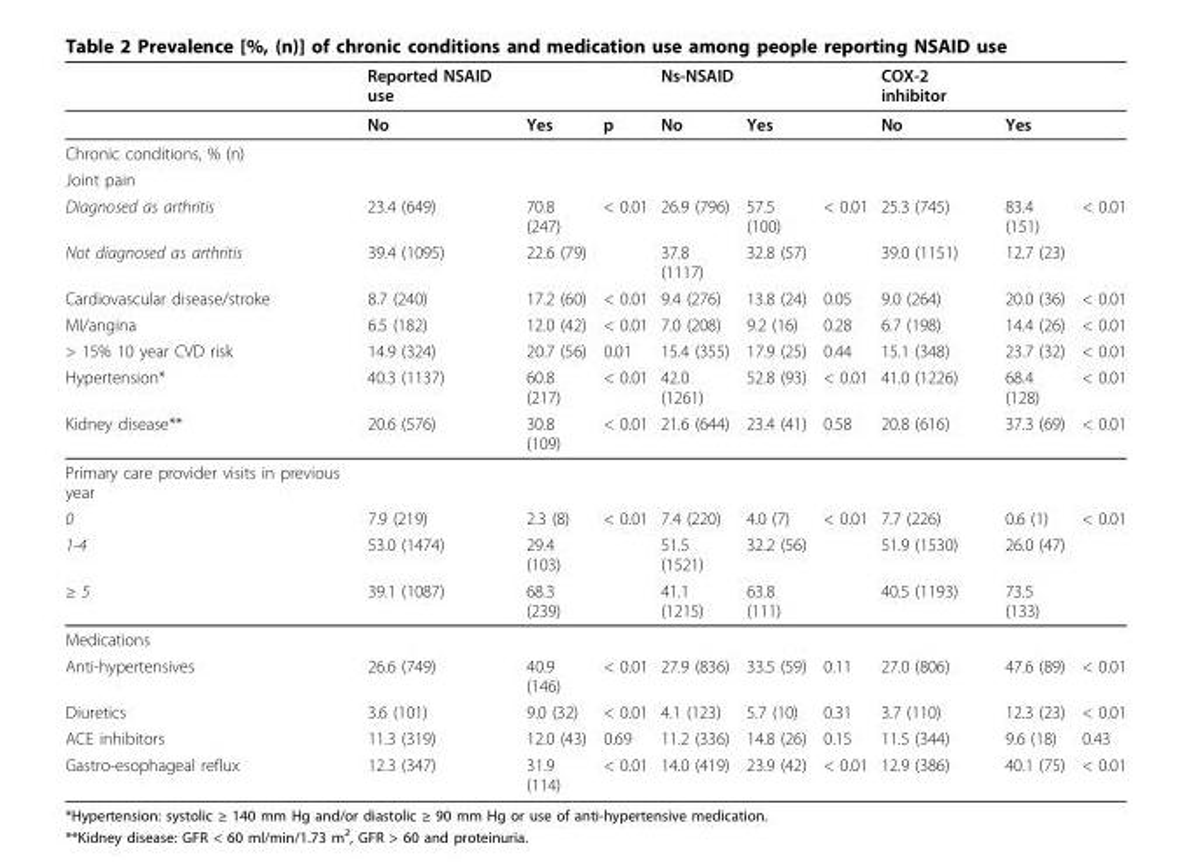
<table><thead><tr><td></td><td>Reported NSAID use</td><td></td><td></td><td>Ns-NSAID</td><td></td><td></td><td>COX-2 inhibitor</td><td></td><td></td></tr></thead><tbody><tr><td></td><td>No</td><td>Yes</td><td>p</td><td>No</td><td>Yes</td><td></td><td>No</td><td>Yes</td><td></td></tr><tr><td colspan="10">Chronic conditions, % (n)</td></tr><tr><td colspan="10">Joint pain</td></tr><tr><td>Diagnosed as arthritis</td><td>23.4 (649)</td><td>70.8 (247)</td><td>&lt; 0.01</td><td>26.9 (796)</td><td>57.5 (100)</td><td>&lt; 0.01</td><td>25.3 (745)</td><td>83.4 (151)</td><td>&lt; 0.01</td></tr><tr><td>Not diagnosed as arthritis</td><td>39.4 (1095)</td><td>22.6 (79)</td><td></td><td>37.8 (1117)</td><td>32.8 (57)</td><td></td><td>39.0 (1151)</td><td>12.7 (23)</td><td></td></tr><tr><td>Cardiovascular disease/stroke</td><td>8.7 (240)</td><td>17.2 (60)</td><td>&lt; 0.01</td><td>9.4 (276)</td><td>13.8 (24)</td><td>0.05</td><td>9.0 (264)</td><td>20.0 (36)</td><td>&lt; 0.01</td></tr><tr><td>MI/angina</td><td>6.5 (182)</td><td>12.0 (42)</td><td>&lt; 0.01</td><td>7.0 (208)</td><td>9.2 (16)</td><td>0.28</td><td>6.7 (198)</td><td>14.4 (26)</td><td>&lt; 0.01</td></tr><tr><td>&gt; 15% 10 year CVD risk</td><td>14.9 (324)</td><td>20.7 (56)</td><td>0.01</td><td>15.4 (355)</td><td>17.9 (25)</td><td>0.44</td><td>15.1 (348)</td><td>23.7 (32)</td><td>&lt; 0.01</td></tr><tr><td>Hypertension*</td><td>40.3 (1137)</td><td>60.8 (217)</td><td>&lt; 0.01</td><td>42.0 (1261)</td><td>52.8 (93)</td><td>&lt; 0.01</td><td>41.0 (1226)</td><td>68.4 (128)</td><td>&lt; 0.01</td></tr><tr><td>Kidney disease**</td><td>20.6 (576)</td><td>30.8 (109)</td><td>&lt; 0.01</td><td>21.6 (644)</td><td>23.4 (41)</td><td>0.58</td><td>20.8 (616)</td><td>37.3 (69)</td><td>&lt; 0.01</td></tr><tr><td colspan="10">Primary care provider visits in previous year</td></tr><tr><td>0</td><td>7.9 (219)</td><td>2.3 (8)</td><td>&lt; 0.01</td><td>7.4 (220)</td><td>4.0 (7)</td><td>&lt; 0.01</td><td>7.7 (226)</td><td>0.6 (1)</td><td>&lt; 0.01</td></tr><tr><td>1-4</td><td>53.0 (1474)</td><td>29.4 (103)</td><td></td><td>51.5 (1521)</td><td>32.2 (56)</td><td></td><td>51.9 (1530)</td><td>26.0 (47)</td><td></td></tr><tr><td>≥ 5</td><td>39.1 (1087)</td><td>68.3 (239)</td><td></td><td>41.1 (1215)</td><td>63.8 (111)</td><td></td><td>40.5 (1193)</td><td>73.5 (133)</td><td></td></tr><tr><td colspan="10">Medications</td></tr><tr><td>Anti-hypertensives</td><td>26.6 (749)</td><td>40.9 (146)</td><td>&lt; 0.01</td><td>27.9 (836)</td><td>33.5 (59)</td><td>0.11</td><td>27.0 (806)</td><td>47.6 (89)</td><td>&lt; 0.01</td></tr><tr><td>Diuretics</td><td>3.6 (101)</td><td>9.0 (32)</td><td>&lt; 0.01</td><td>4.1 (123)</td><td>5.7 (10)</td><td>0.31</td><td>3.7 (110)</td><td>12.3 (23)</td><td>&lt; 0.01</td></tr><tr><td>ACE inhibitors</td><td>11.3 (319)</td><td>12.0 (43)</td><td>0.69</td><td>11.2 (336)</td><td>14.8 (26)</td><td>0.15</td><td>11.5 (344)</td><td>9.6 (18)</td><td>0.43</td></tr><tr><td>Gastro-esophageal reflux</td><td>12.3 (347)</td><td>31.9 (114)</td><td>&lt; 0.01</td><td>14.0 (419)</td><td>23.9 (42)</td><td>&lt; 0.01</td><td>12.9 (386)</td><td>40.1 (75)</td><td>&lt; 0.01</td></tr></tbody></table>